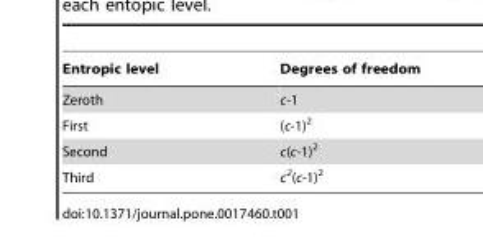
<table><thead><tr><td>Entropic level</td><td>Degrees of freedom</td></tr></thead><tbody><tr><td>Zeroth</td><td>c-1</td></tr><tr><td>First</td><td>(c-1)<sup>2</sup></td></tr><tr><td>Second</td><td>c(c-1)<sup>2</sup></td></tr><tr><td>Third</td><td>c<sup>2</sup>(c-1)<sup>2</sup></td></tr></tbody></table>